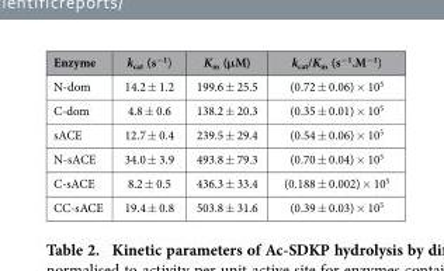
<table><thead><tr><td>Enzyme</td><td>k<sub>cat</sub> (s<sup>−1</sup>)</td><td>K<sub>m</sub> (μM)</td><td>k<sub>cat</sub>/K<sub>m</sub> (s<sup>−1</sup>.M<sup>−1</sup>)</td></tr></thead><tbody><tr><td>N-dom</td><td>14.2 ± 1.2</td><td>199.6 ± 25.5</td><td>(0.72 ± 0.06) × 10<sup>5</sup></td></tr><tr><td>C-dom</td><td>4.8 ± 0.6</td><td>138.2 ± 20.3</td><td>(0.35 ± 0.01) × 10<sup>5</sup></td></tr><tr><td>sACE</td><td>12.7 ± 0.4</td><td>239.5 ± 29.4</td><td>(0.54 ± 0.06) × 10<sup>5</sup></td></tr><tr><td>N-sACE</td><td>34.0 ± 3.9</td><td>493.8 ± 79.3</td><td>(0.70 ± 0.04) × 10<sup>5</sup></td></tr><tr><td>C-sACE</td><td>8.2 ± 0.5</td><td>436.3 ± 33.4</td><td>(0.188 ± 0.002) × 10<sup>5</sup></td></tr><tr><td>CC-sACE</td><td>19.4 ± 0.8</td><td>503.8 ± 31.6</td><td>(0.39 ± 0.03) × 10<sup>5</sup></td></tr></tbody></table>